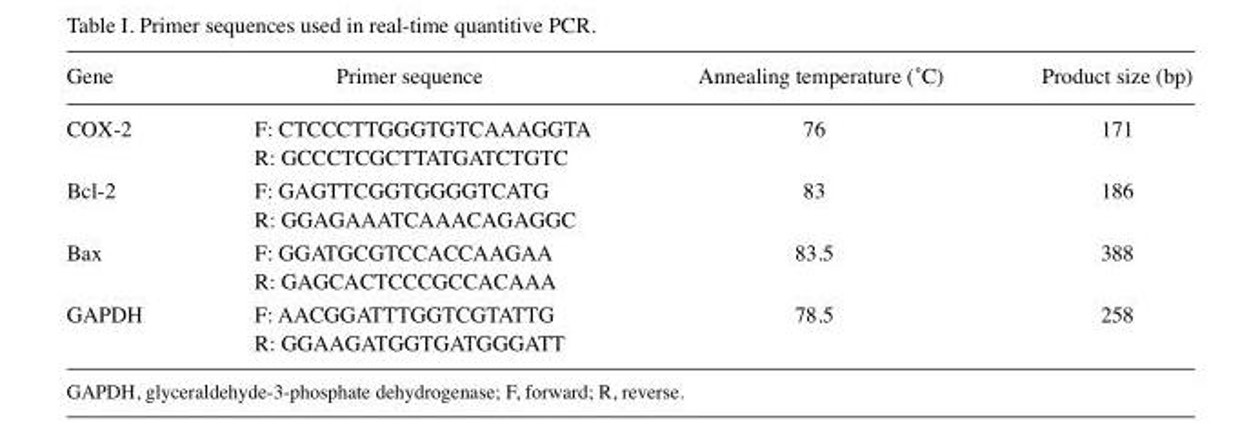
<table><thead><tr><td>Gene</td><td>Primer sequence</td><td>Annealing temperature (̊C)</td><td>Product size (bp)</td></tr></thead><tbody><tr><td rowspan="2">COX-2</td><td>F: CTCCCTTGGGTGTCAAAGGTA</td><td>76</td><td>171</td></tr><tr><td>R: GCCCTCGCTTATGATCTGTC</td><td></td><td></td></tr><tr><td rowspan="2">Bcl-2</td><td>F: GAGTTCGGTGGGGTCATG</td><td>83</td><td>186</td></tr><tr><td>R: GGAGAAATCAAACAGAGGC</td><td></td><td></td></tr><tr><td rowspan="2">Bax</td><td>F: GGATGCGTCCACCAAGAA</td><td>83.5</td><td>388</td></tr><tr><td>R: GAGCACTCCCGCCACAAA</td><td></td><td></td></tr><tr><td rowspan="2">GAPDH</td><td>F: AACGGATTTGGTCGTATTG</td><td>78.5</td><td>258</td></tr><tr><td>R: GGAAGATGGTGATGGGATT</td><td></td><td></td></tr></tbody></table>